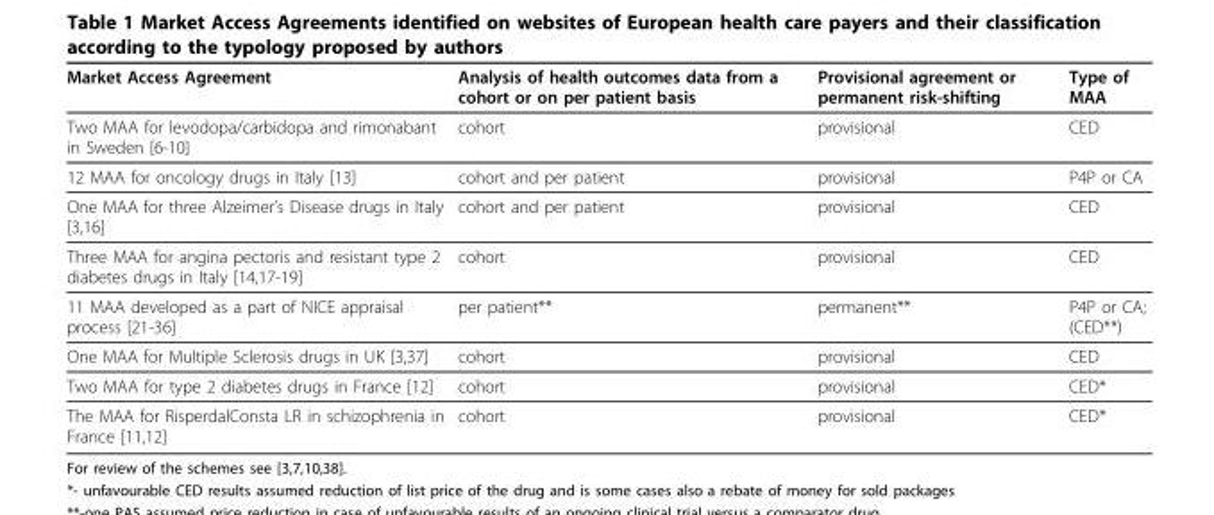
<table><thead><tr><td>Market Access Agreement</td><td>Analysis of health outcomes data from a cohort or on per patient basis</td><td>Provisional agreement or permanent risk-shifting</td><td>Type of MAA</td></tr></thead><tbody><tr><td>Two MAA for levodopa/carbidopa and rimonabant in Sweden [6-10]</td><td>cohort</td><td>provisional</td><td>CED</td></tr><tr><td>12 MAA for oncology drugs in Italy [13]</td><td>cohort and per patient</td><td>provisional</td><td>P4P or CA</td></tr><tr><td>One MAA for three Alzeimer’s Disease drugs in Italy [3,16]</td><td>cohort and per patient</td><td>provisional</td><td>CED</td></tr><tr><td>Three MAA for angina pectoris and resistant type 2 diabetes drugs in Italy [14,17-19]</td><td>cohort</td><td>provisional</td><td>CED</td></tr><tr><td>11 MAA developed as a part of NICE appraisal process [21-36]</td><td>per patient**</td><td>permanent**</td><td>P4P or CA; (CED**)</td></tr><tr><td>One MAA for Multiple Sclerosis drugs in UK [3,37]</td><td>cohort</td><td>provisional</td><td>CED</td></tr><tr><td>Two MAA for type 2 diabetes drugs in France [12]</td><td>cohort</td><td>provisional</td><td>CED*</td></tr><tr><td>The MAA for RisperdalConsta LR in schizophrenia in France [11,12]</td><td>cohort</td><td>provisional</td><td>CED*</td></tr></tbody></table>